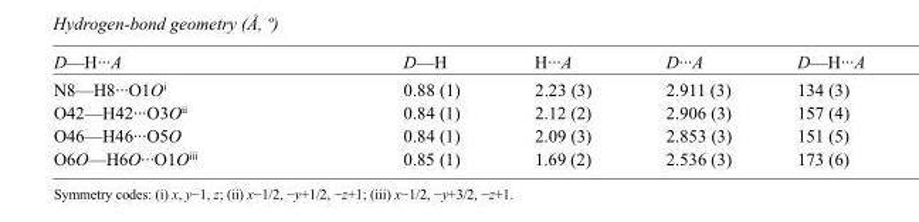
<table><tbody><tr><td>D—H···A</td><td>D—H</td><td>H···A</td><td>D···A</td><td>D—H···A</td></tr><tr><td>N8—H8···O1O<sup>i</sup></td><td>0.88 (1)</td><td>2.23 (3)</td><td>2.911 (3)</td><td>134 (3)</td></tr><tr><td>O42—H42···O3O<sup>ii</sup></td><td>0.84 (1)</td><td>2.12 (2)</td><td>2.906 (3)</td><td>157 (4)</td></tr><tr><td>O46—H46···O5O</td><td>0.84 (1)</td><td>2.09 (3)</td><td>2.853 (3)</td><td>151 (5)</td></tr><tr><td>O6O—H6O···O1O<sup>iii</sup></td><td>0.85 (1)</td><td>1.69 (2)</td><td>2.536 (3)</td><td>173 (6)</td></tr></tbody></table>